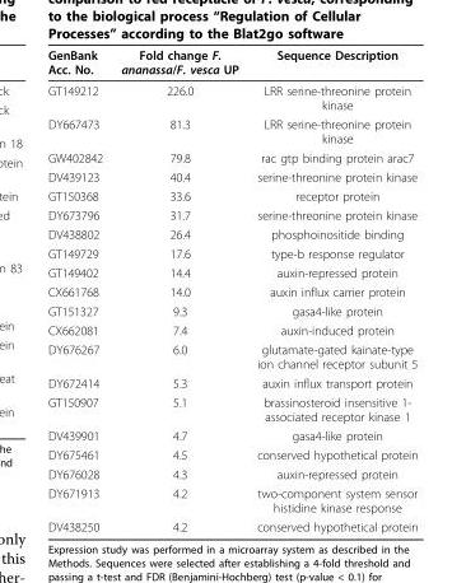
<table><thead><tr><td>GenBank Acc. No.</td><td>Fold change F. ananassa/F. vesca UP</td><td>Sequence Description</td></tr></thead><tbody><tr><td>GT149212</td><td>226.0</td><td>LRR serine-threonine protein kinase</td></tr><tr><td>DY667473</td><td>81.3</td><td>LRR serine-threonine protein kinase</td></tr><tr><td>GW402842</td><td>79.8</td><td>rac gtp binding protein arac7</td></tr><tr><td>DV439123</td><td>40.4</td><td>serine-threonine protein kinase</td></tr><tr><td>GT150368</td><td>33.6</td><td>receptor protein</td></tr><tr><td>DY673796</td><td>31.7</td><td>serine-threonine protein kinase</td></tr><tr><td>DV438802</td><td>26.4</td><td>phosphoinositide binding</td></tr><tr><td>GT149729</td><td>17.6</td><td>type-b response regulator</td></tr><tr><td>GT149402</td><td>14.4</td><td>auxin-repressed protein</td></tr><tr><td>CX661768</td><td>14.0</td><td>auxin influx carrier protein</td></tr><tr><td>GT151327</td><td>9.3</td><td>gasa4-like protein</td></tr><tr><td>CX662081</td><td>7.4</td><td>auxin-induced protein</td></tr><tr><td>DY676267</td><td>6.0</td><td>glutamate-gated kainate-type ion channel receptor subunit 5</td></tr><tr><td>DY672414</td><td>5.3</td><td>auxin influx transport protein</td></tr><tr><td>GT150907</td><td>5.1</td><td>brassinosteroid insensitive 1- associated receptor kinase 1</td></tr><tr><td>DV439901</td><td>4.7</td><td>gasa4-like protein</td></tr><tr><td>DY675461</td><td>4.5</td><td>conserved hypothetical protein</td></tr><tr><td>DY676028</td><td>4.3</td><td>auxin-repressed protein</td></tr><tr><td>DY671913</td><td>4.2</td><td>two-component system sensor histidine kinase response</td></tr><tr><td>DV438250</td><td>4.2</td><td>conserved hypothetical protein</td></tr></tbody></table>